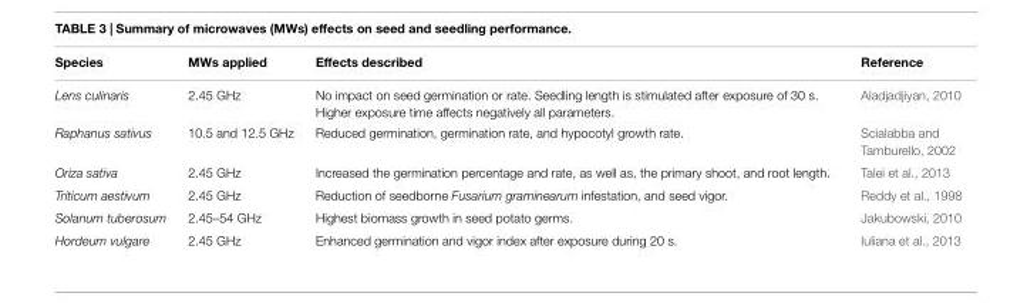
<table><thead><tr><td>Species</td><td>MWs applied</td><td>Effects described</td><td>Reference</td></tr></thead><tbody><tr><td>Lens culinaris</td><td>2.45 GHz</td><td>No impact on seed germination or rate. Seedling length is stimulated after exposure of 30 s. Higher exposure time affects negatively all parameters.</td><td>Aladjadjiyan, 2010</td></tr><tr><td>Raphanus sativus</td><td>10.5 and 12.5 GHz</td><td>Reduced germination, germination rate, and hypocotyl growth rate.</td><td>Scialabba and Tamburello, 2002</td></tr><tr><td>Oriza sativa</td><td>2.45 GHz</td><td>Increased the germination percentage and rate, as well as, the primary shoot, and root length.</td><td>Talei et al., 2013</td></tr><tr><td>Triticum aestivum</td><td>2.45 GHz</td><td>Reduction of seedborne Fusarium graminearum infestation, and seed vigor.</td><td>Reddy et al., 1998</td></tr><tr><td>Solanum tuberosum</td><td>2.45–54 GHz</td><td>Highest biomass growth in seed potato germs.</td><td>Jakubowski, 2010</td></tr><tr><td>Hordeum vulgare</td><td>2.45 GHz</td><td>Enhanced germination and vigor index after exposure during 20 s.</td><td>Iuliana et al., 2013</td></tr></tbody></table>